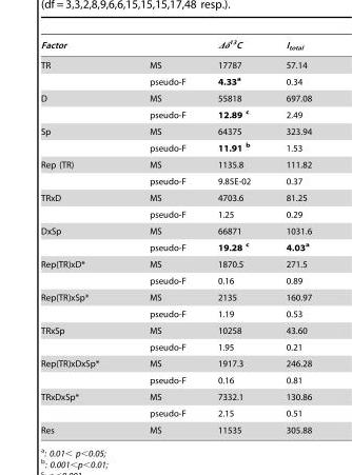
<table><thead><tr><td>Factor</td><td></td><td>Δδ<sup>13</sup>C</td><td>I<sub>total</sub></td></tr></thead><tbody><tr><td rowspan="2">TR</td><td>MS</td><td>17787</td><td>57.14</td></tr><tr><td>pseudo-F</td><td>4.33a</td><td>0.34</td></tr><tr><td rowspan="2">D</td><td>MS</td><td>55818</td><td>697.08</td></tr><tr><td>pseudo-F</td><td>12.89 c</td><td>2.49</td></tr><tr><td rowspan="2">Sp</td><td>MS</td><td>64375</td><td>323.94</td></tr><tr><td>pseudo-F</td><td>11.91 b</td><td>1.53</td></tr><tr><td rowspan="2">Rep (TR)</td><td>MS</td><td>1135.8</td><td>111.82</td></tr><tr><td>pseudo-F</td><td>9.85E-02</td><td>0.37</td></tr><tr><td rowspan="2">TRxD</td><td>MS</td><td>4703.6</td><td>81.25</td></tr><tr><td>pseudo-F</td><td>1.25</td><td>0.29</td></tr><tr><td rowspan="2">DxSp</td><td>MS</td><td>66871</td><td>1031.6</td></tr><tr><td>pseudo-F</td><td>19.28 c</td><td>4.03a</td></tr><tr><td rowspan="2">Rep(TR)xD*</td><td>MS</td><td>1870.5</td><td>271.5</td></tr><tr><td>pseudo-F</td><td>0.16</td><td>0.89</td></tr><tr><td rowspan="2">Rep(TR)xSp*</td><td>MS</td><td>2135</td><td>160.97</td></tr><tr><td>pseudo-F</td><td>1.19</td><td>0.53</td></tr><tr><td rowspan="2">TRxSp</td><td>MS</td><td>10258</td><td>43.60</td></tr><tr><td>pseudo-F</td><td>1.95</td><td>0.21</td></tr><tr><td rowspan="2">Rep(TR)xDxSp*</td><td>MS</td><td>1917.3</td><td>246.28</td></tr><tr><td>pseudo-F</td><td>0.16</td><td>0.81</td></tr><tr><td rowspan="2">TRxDxSp*</td><td>MS</td><td>7332.1</td><td>130.86</td></tr><tr><td>pseudo-F</td><td>2.15</td><td>0.51</td></tr><tr><td>Res</td><td>MS</td><td>11535</td><td>305.88</td></tr></tbody></table>